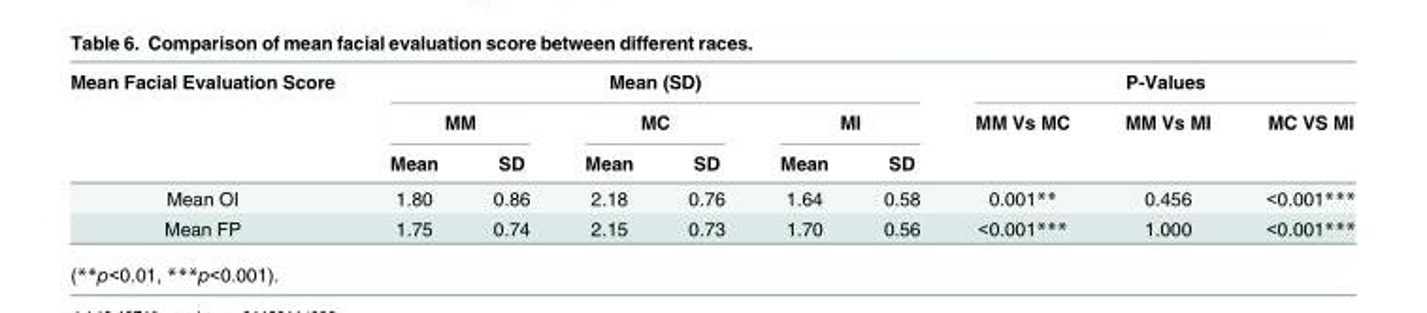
<table><thead><tr><td rowspan="3">Mean Facial Evaluation Score</td><td colspan="6">Mean (SD)</td><td colspan="3">P-Values</td></tr><tr><td colspan="2">MM</td><td colspan="2">MC</td><td colspan="2">MI</td><td rowspan="2">MM Vs MC</td><td rowspan="2">MM Vs MI</td><td rowspan="2">MC VS MI</td></tr><tr><td>Mean</td><td>SD</td><td>Mean</td><td>SD</td><td>Mean</td><td>SD</td></tr></thead><tbody><tr><td>Mean OI</td><td>1.80</td><td>0.86</td><td>2.18</td><td>0.76</td><td>1.64</td><td>0.58</td><td>0.001**</td><td>0.456</td><td>&lt;0.001***</td></tr><tr><td>Mean FP</td><td>1.75</td><td>0.74</td><td>2.15</td><td>0.73</td><td>1.70</td><td>0.56</td><td>&lt;0.001***</td><td>1.000</td><td>&lt;0.001***</td></tr></tbody></table>